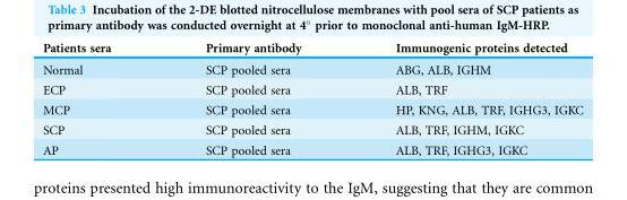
<table><thead><tr><td>Patients sera</td><td>Primary antibody</td><td>Immunogenic proteins detected</td></tr></thead><tbody><tr><td>Normal</td><td>SCP pooled sera</td><td>ABG, ALB, IGHM</td></tr><tr><td>ECP</td><td>SCP pooled sera</td><td>ALB, TRF</td></tr><tr><td>MCP</td><td>SCP pooled sera</td><td>HP, KNG, ALB, TRF, IGHG3, IGKC</td></tr><tr><td>SCP</td><td>SCP pooled sera</td><td>ALB, TRF, IGHM, IGKC</td></tr><tr><td>AP</td><td>SCP pooled sera</td><td>ALB, TRF, IGHG3, IGKC</td></tr></tbody></table>